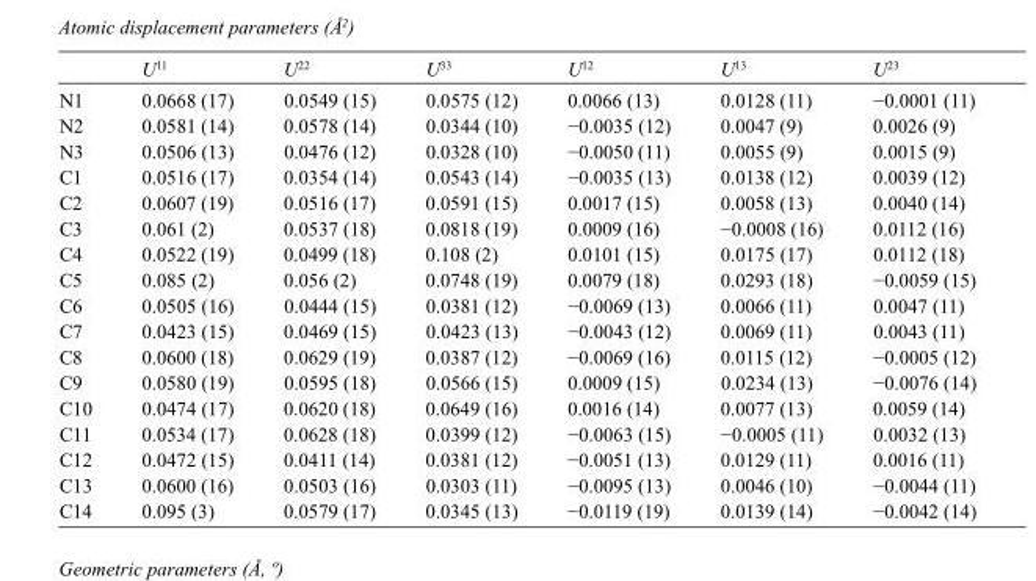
<table><thead><tr><td></td><td>U<sup>11</sup></td><td>U<sup>22</sup></td><td>U<sup>33</sup></td><td>U<sup>12</sup></td><td>U<sup>13</sup></td><td>U<sup>23</sup></td></tr></thead><tbody><tr><td>N1</td><td>0.0668 (17)</td><td>0.0549 (15)</td><td>0.0575 (12)</td><td>0.0066 (13)</td><td>0.0128 (11)</td><td>−0.0001 (11)</td></tr><tr><td>N2</td><td>0.0581 (14)</td><td>0.0578 (14)</td><td>0.0344 (10)</td><td>−0.0035 (12)</td><td>0.0047 (9)</td><td>0.0026 (9)</td></tr><tr><td>N3</td><td>0.0506 (13)</td><td>0.0476 (12)</td><td>0.0328 (10)</td><td>−0.0050 (11)</td><td>0.0055 (9)</td><td>0.0015 (9)</td></tr><tr><td>C1</td><td>0.0516 (17)</td><td>0.0354 (14)</td><td>0.0543 (14)</td><td>−0.0035 (13)</td><td>0.0138 (12)</td><td>0.0039 (12)</td></tr><tr><td>C2</td><td>0.0607 (19)</td><td>0.0516 (17)</td><td>0.0591 (15)</td><td>0.0017 (15)</td><td>0.0058 (13)</td><td>0.0040 (14)</td></tr><tr><td>C3</td><td>0.061 (2)</td><td>0.0537 (18)</td><td>0.0818 (19)</td><td>0.0009 (16)</td><td>−0.0008 (16)</td><td>0.0112 (16)</td></tr><tr><td>C4</td><td>0.0522 (19)</td><td>0.0499 (18)</td><td>0.108 (2)</td><td>0.0101 (15)</td><td>0.0175 (17)</td><td>0.0112 (18)</td></tr><tr><td>C5</td><td>0.085 (2)</td><td>0.056 (2)</td><td>0.0748 (19)</td><td>0.0079 (18)</td><td>0.0293 (18)</td><td>−0.0059 (15)</td></tr><tr><td>C6</td><td>0.0505 (16)</td><td>0.0444 (15)</td><td>0.0381 (12)</td><td>−0.0069 (13)</td><td>0.0066 (11)</td><td>0.0047 (11)</td></tr><tr><td>C7</td><td>0.0423 (15)</td><td>0.0469 (15)</td><td>0.0423 (13)</td><td>−0.0043 (12)</td><td>0.0069 (11)</td><td>0.0043 (11)</td></tr><tr><td>C8</td><td>0.0600 (18)</td><td>0.0629 (19)</td><td>0.0387 (12)</td><td>−0.0069 (16)</td><td>0.0115 (12)</td><td>−0.0005 (12)</td></tr><tr><td>C9</td><td>0.0580 (19)</td><td>0.0595 (18)</td><td>0.0566 (15)</td><td>0.0009 (15)</td><td>0.0234 (13)</td><td>−0.0076 (14)</td></tr><tr><td>C10</td><td>0.0474 (17)</td><td>0.0620 (18)</td><td>0.0649 (16)</td><td>0.0016 (14)</td><td>0.0077 (13)</td><td>0.0059 (14)</td></tr><tr><td>C11</td><td>0.0534 (17)</td><td>0.0628 (18)</td><td>0.0399 (12)</td><td>−0.0063 (15)</td><td>−0.0005 (11)</td><td>0.0032 (13)</td></tr><tr><td>C12</td><td>0.0472 (15)</td><td>0.0411 (14)</td><td>0.0381 (12)</td><td>−0.0051 (13)</td><td>0.0129 (11)</td><td>0.0016 (11)</td></tr><tr><td>C13</td><td>0.0600 (16)</td><td>0.0503 (16)</td><td>0.0303 (11)</td><td>−0.0095 (13)</td><td>0.0046 (10)</td><td>−0.0044 (11)</td></tr><tr><td>C14</td><td>0.095 (3)</td><td>0.0579 (17)</td><td>0.0345 (13)</td><td>−0.0119 (19)</td><td>0.0139 (14)</td><td>−0.0042 (14)</td></tr></tbody></table>